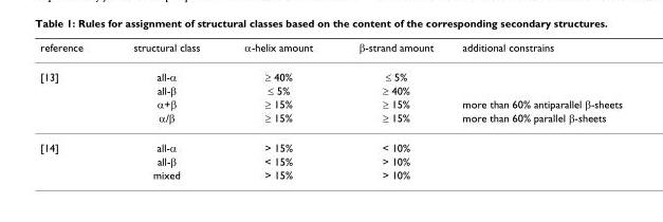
<table><thead><tr><td>reference</td><td>structural class</td><td>α-helix amount</td><td>β-strand amount</td><td>additional constrains</td></tr></thead><tbody><tr><td rowspan="4">[13]</td><td>all-α</td><td>≥ 40%</td><td>≤ 5%</td><td></td></tr><tr><td>all-β</td><td>≤ 5%</td><td>≥ 40%</td><td></td></tr><tr><td>α+β</td><td>≥ 15%</td><td>≥ 15%</td><td>more than 60% antiparallel β-sheets</td></tr><tr><td>α/β</td><td>≥ 15%</td><td>≥ 15%</td><td>more than 60% parallel β-sheets</td></tr><tr><td rowspan="3">[14]</td><td>all-α</td><td>&gt; 15%</td><td>&lt; 10%</td><td></td></tr><tr><td>all-β</td><td>&lt; 15%</td><td>&gt; 10%</td><td></td></tr><tr><td>mixed</td><td>&gt; 15%</td><td>&gt; 10%</td><td></td></tr></tbody></table>